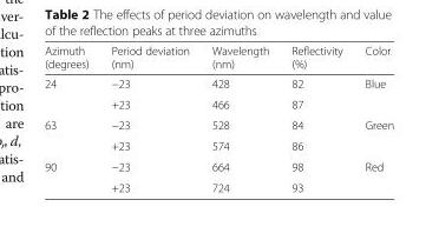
<table><thead><tr><td>Azimuth (degrees)</td><td>Period deviation (nm)</td><td>Wavelength (nm)</td><td>Reflectivity (%)</td><td>Color</td></tr></thead><tbody><tr><td rowspan="2">24</td><td>−23</td><td>428</td><td>82</td><td rowspan="2">Blue</td></tr><tr><td>+23</td><td>466</td><td>87</td></tr><tr><td rowspan="2">63</td><td>−23</td><td>528</td><td>84</td><td rowspan="2">Green</td></tr><tr><td>+23</td><td>574</td><td>86</td></tr><tr><td rowspan="2">90</td><td>−23</td><td>664</td><td>98</td><td rowspan="2">Red</td></tr><tr><td>+23</td><td>724</td><td>93</td></tr></tbody></table>